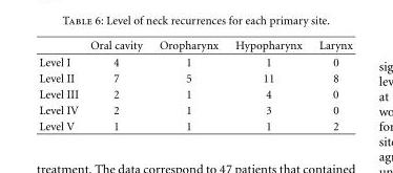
<table><thead><tr><td></td><td>Oral cavity</td><td>Oropharynx</td><td>Hypopharynx</td><td>Larynx</td></tr></thead><tbody><tr><td>Level I</td><td>4</td><td>1</td><td>1</td><td>0</td></tr><tr><td>Level II</td><td>7</td><td>5</td><td>11</td><td>8</td></tr><tr><td>Level III</td><td>2</td><td>1</td><td>4</td><td>0</td></tr><tr><td>Level IV</td><td>2</td><td>1</td><td>3</td><td>0</td></tr><tr><td>Level V</td><td>1</td><td>1</td><td>1</td><td>2</td></tr></tbody></table>